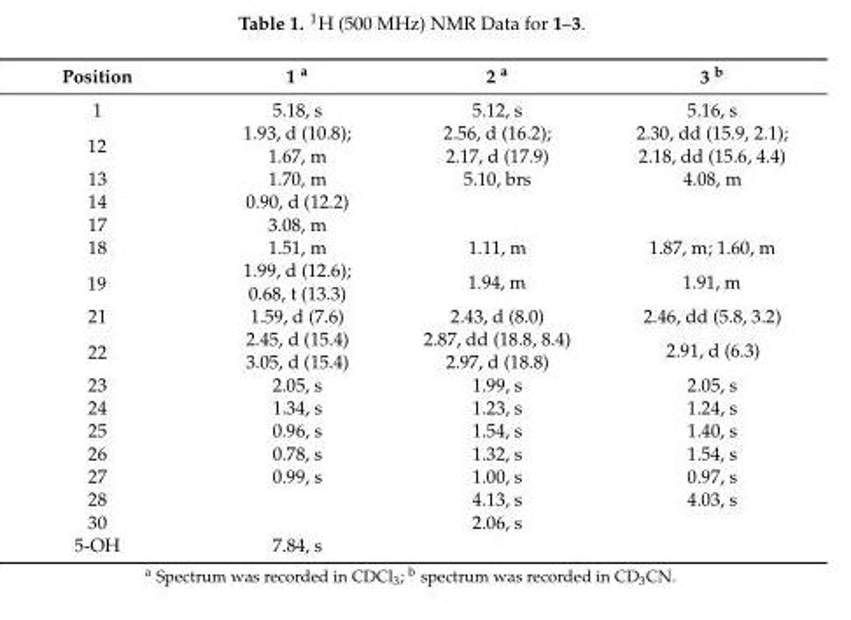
<table><thead><tr><td>Position</td><td>1 a</td><td>2 a</td><td>3 b</td></tr></thead><tbody><tr><td>1</td><td>5.18, s</td><td>5.12, s</td><td>5.16, s</td></tr><tr><td rowspan="2">12</td><td>1.93, d (10.8);</td><td>2.56, d (16.2);</td><td>2.30, dd (15.9, 2.1);</td></tr><tr><td>1.67, m</td><td>2.17, d (17.9)</td><td>2.18, dd (15.6, 4.4)</td></tr><tr><td>13</td><td>1.70, m</td><td>5.10, brs</td><td>4.08, m</td></tr><tr><td>14</td><td>0.90, d (12.2)</td><td></td><td></td></tr><tr><td>17</td><td>3.08, m</td><td></td><td></td></tr><tr><td>18</td><td>1.51, m</td><td>1.11, m</td><td>1.87, m; 1.60, m</td></tr><tr><td rowspan="2">19</td><td>1.99, d (12.6);</td><td rowspan="2">1.94, m</td><td rowspan="2">1.91, m</td></tr><tr><td>0.68, t (13.3)</td></tr><tr><td>21</td><td>1.59, d (7.6)</td><td>2.43, d (8.0)</td><td>2.46, dd (5.8, 3.2)</td></tr><tr><td rowspan="2">22</td><td>2.45, d (15.4)</td><td>2.87, dd (18.8, 8.4)</td><td rowspan="2">2.91, d (6.3)</td></tr><tr><td>3.05, d (15.4)</td><td>2.97, d (18.8)</td></tr><tr><td>23</td><td>2.05, s</td><td>1.99, s</td><td>2.05, s</td></tr><tr><td>24</td><td>1.34, s</td><td>1.23, s</td><td>1.24, s</td></tr><tr><td>25</td><td>0.96, s</td><td>1.54, s</td><td>1.40, s</td></tr><tr><td>26</td><td>0.78, s</td><td>1.32, s</td><td>1.54, s</td></tr><tr><td>27</td><td>0.99, s</td><td>1.00, s</td><td>0.97, s</td></tr><tr><td>28</td><td></td><td>4.13, s</td><td>4.03, s</td></tr><tr><td>30</td><td></td><td>2.06, s</td><td></td></tr><tr><td>5-OH</td><td>7.84, s</td><td></td><td></td></tr></tbody></table>